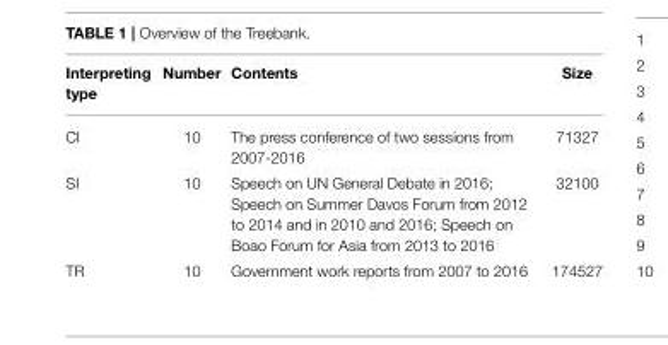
<table><thead><tr><td>Interpreting type</td><td>Number</td><td>Contents</td><td>Size</td></tr></thead><tbody><tr><td>CI</td><td>10</td><td>The press conference of two sessions from 2007-2016</td><td>71327</td></tr><tr><td>SI</td><td>10</td><td>Speech on UN General Debate in 2016; Speech on Summer Davos Forum from 2012 to 2014 and in 2010 and 2016; Speech on Boao Forum for Asia from 2013 to 2016</td><td>32100</td></tr><tr><td>TR</td><td>10</td><td>Government work reports from 2007 to 2016</td><td>174527</td></tr></tbody></table>